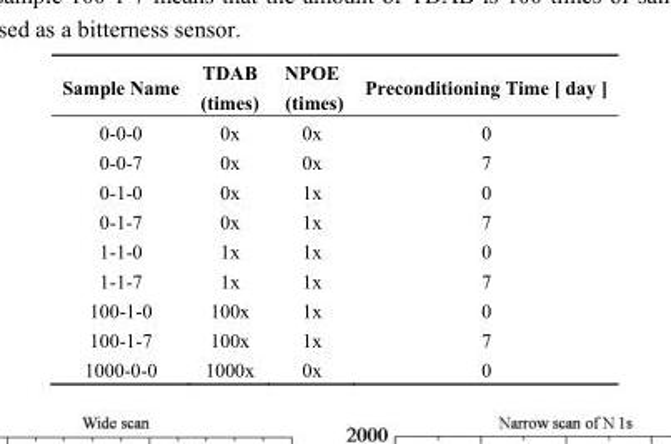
<table><thead><tr><td>Sample Name</td><td>TDAB (times)</td><td>NPOE (times)</td><td>Preconditioning Time [ day ]</td></tr></thead><tbody><tr><td>0-0-0</td><td>0x</td><td>0x</td><td>0</td></tr><tr><td>0-0-7</td><td>0x</td><td>0x</td><td>7</td></tr><tr><td>0-1-0</td><td>0x</td><td>1x</td><td>0</td></tr><tr><td>0-1-7</td><td>0x</td><td>1x</td><td>7</td></tr><tr><td>1-1-0</td><td>1x</td><td>1x</td><td>0</td></tr><tr><td>1-1-7</td><td>1x</td><td>1x</td><td>7</td></tr><tr><td>100-1-0</td><td>100x</td><td>1x</td><td>0</td></tr><tr><td>100-1-7</td><td>100x</td><td>1x</td><td>7</td></tr><tr><td>1000-0-0</td><td>1000x</td><td>0x</td><td>0</td></tr></tbody></table>